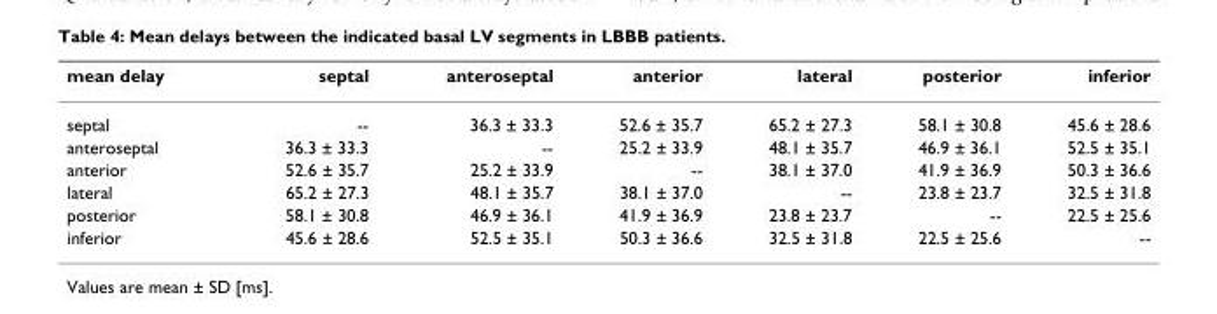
<table><thead><tr><td>mean delay</td><td>septal</td><td>anteroseptal</td><td>anterior</td><td>lateral</td><td>posterior</td><td>inferior</td></tr></thead><tbody><tr><td>septal</td><td>--</td><td>36.3 ± 33.3</td><td>52.6 ± 35.7</td><td>65.2 ± 27.3</td><td>58.1 ± 30.8</td><td>45.6 ± 28.6</td></tr><tr><td>anteroseptal</td><td>36.3 ± 33.3</td><td>--</td><td>25.2 ± 33.9</td><td>48.1 ± 35.7</td><td>46.9 ± 36.1</td><td>52.5 ± 35.1</td></tr><tr><td>anterior</td><td>52.6 ± 35.7</td><td>25.2 ± 33.9</td><td>--</td><td>38.1 ± 37.0</td><td>41.9 ± 36.9</td><td>50.3 ± 36.6</td></tr><tr><td>lateral</td><td>65.2 ± 27.3</td><td>48.1 ± 35.7</td><td>38.1 ± 37.0</td><td>--</td><td>23.8 ± 23.7</td><td>32.5 ± 31.8</td></tr><tr><td>posterior</td><td>58.1 ± 30.8</td><td>46.9 ± 36.1</td><td>41.9 ± 36.9</td><td>23.8 ± 23.7</td><td>--</td><td>22.5 ± 25.6</td></tr><tr><td>inferior</td><td>45.6 ± 28.6</td><td>52.5 ± 35.1</td><td>50.3 ± 36.6</td><td>32.5 ± 31.8</td><td>22.5 ± 25.6</td><td>--</td></tr></tbody></table>